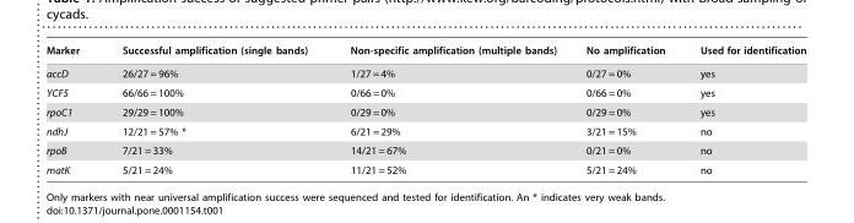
<table><thead><tr><td>Marker</td><td>Successful amplification (single bands)</td><td>Non-specific amplification (multiple bands)</td><td>No amplification</td><td>Used for identification</td></tr></thead><tbody><tr><td>accD</td><td>26/27 = 96%</td><td>1/27 = 4%</td><td>0/27 = 0%</td><td>yes</td></tr><tr><td>YCF5</td><td>66/66 = 100%</td><td>0/66 = 0%</td><td>0/66 = 0%</td><td>yes</td></tr><tr><td>rpoC1</td><td>29/29 = 100%</td><td>0/29 = 0%</td><td>0/29 = 0%</td><td>yes</td></tr><tr><td>ndhJ</td><td>12/21 = 57% *</td><td>6/21 = 29%</td><td>3/21 = 15%</td><td>no</td></tr><tr><td>rpoB</td><td>7/21 = 33%</td><td>14/21 = 67%</td><td>0/21 = 0%</td><td>no</td></tr><tr><td>matK</td><td>5/21 = 24%</td><td>11/21 = 52%</td><td>5/21 = 24%</td><td>no</td></tr></tbody></table>